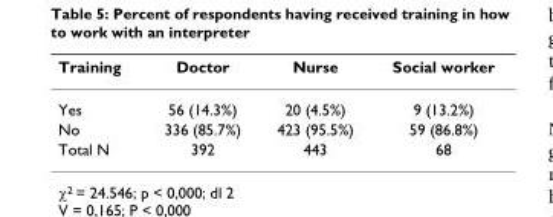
<table><thead><tr><td>Training</td><td>Doctor</td><td>Nurse</td><td>Social worker</td></tr></thead><tbody><tr><td>Yes</td><td>56 (14.3%)</td><td>20 (4.5%)</td><td>9 (13.2%)</td></tr><tr><td>No</td><td>336 (85.7%)</td><td>423 (95.5%)</td><td>59 (86.8%)</td></tr><tr><td>Total N</td><td>392</td><td>443</td><td>68</td></tr></tbody></table>